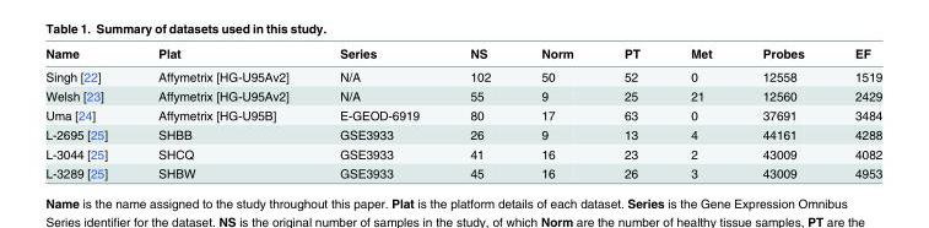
<table><thead><tr><td>Name</td><td>Plat</td><td>Series</td><td>NS</td><td>Norm</td><td>PT</td><td>Met</td><td>Probes</td><td>EF</td></tr></thead><tbody><tr><td>Singh [22]</td><td>Affymetrix [HG-U95Av2]</td><td>N/A</td><td>102</td><td>50</td><td>52</td><td>0</td><td>12558</td><td>1519</td></tr><tr><td>Welsh [23]</td><td>Affymetrix [HG-U95Av2]</td><td>N/A</td><td>55</td><td>9</td><td>25</td><td>21</td><td>12560</td><td>2429</td></tr><tr><td>Uma [24]</td><td>Affymetrix [HG-U95B]</td><td>E-GEOD-6919</td><td>80</td><td>17</td><td>63</td><td>0</td><td>37691</td><td>3484</td></tr><tr><td>L-2695 [25]</td><td>SHBB</td><td>GSE3933</td><td>26</td><td>9</td><td>13</td><td>4</td><td>44161</td><td>4288</td></tr><tr><td>L-3044 [25]</td><td>SHCQ</td><td>GSE3933</td><td>41</td><td>16</td><td>23</td><td>2</td><td>43009</td><td>4082</td></tr><tr><td>L-3289 [25]</td><td>SHBW</td><td>GSE3933</td><td>45</td><td>16</td><td>26</td><td>3</td><td>43009</td><td>4953</td></tr></tbody></table>